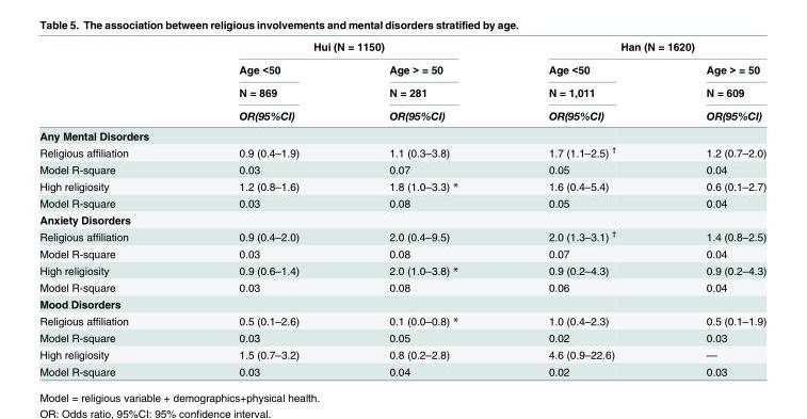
<table><thead><tr><td rowspan="4"></td><td colspan="2">Hui (N = 1150)</td><td colspan="2">Han (N = 1620)</td></tr><tr><td rowspan="3">Age &lt;50 N = 869 OR(95%CI)</td><td rowspan="3">Age &gt; = 50 N = 281 OR(95%CI)</td><td rowspan="3">Age &lt;50 N = 1,011 OR(95%CI)</td><td rowspan="3">Age &gt; = 50 N = 609 OR(95%CI)</td></tr><tr></tr><tr></tr></thead><tbody><tr><td colspan="5">Any Mental Disorders</td></tr><tr><td>Religious affiliation</td><td>0.9 (0.4–1.9)</td><td>1.1 (0.3–3.8)</td><td>1.7 (1.1–2.5) <sup>†</sup></td><td>1.2 (0.7–2.0)</td></tr><tr><td>Model R-square</td><td>0.03</td><td>0.07</td><td>0.05</td><td>0.04</td></tr><tr><td>High religiosity</td><td>1.2 (0.8–1.6)</td><td>1.8 (1.0–3.3) *</td><td>1.6 (0.4–5.4)</td><td>0.6 (0.1–2.7)</td></tr><tr><td>Model R-square</td><td>0.03</td><td>0.08</td><td>0.05</td><td>0.04</td></tr><tr><td colspan="5">Anxiety Disorders</td></tr><tr><td>Religious affiliation</td><td>0.9 (0.4–2.0)</td><td>2.0 (0.4–9.5)</td><td>2.0 (1.3–3.1) <sup>†</sup></td><td>1.4 (0.8–2.5)</td></tr><tr><td>Model R-square</td><td>0.03</td><td>0.08</td><td>0.07</td><td>0.04</td></tr><tr><td>High religiosity</td><td>0.9 (0.6–1.4)</td><td>2.0 (1.0–3.8) *</td><td>0.9 (0.2–4.3)</td><td>0.9 (0.2–4.3)</td></tr><tr><td>Model R-square</td><td>0.03</td><td>0.08</td><td>0.06</td><td>0.04</td></tr><tr><td colspan="5">Mood Disorders</td></tr><tr><td>Religious affiliation</td><td>0.5 (0.1–2.6)</td><td>0.1 (0.0–0.8) *</td><td>1.0 (0.4–2.3)</td><td>0.5 (0.1–1.9)</td></tr><tr><td>Model R-square</td><td>0.03</td><td>0.05</td><td>0.02</td><td>0.03</td></tr><tr><td>High religiosity</td><td>1.5 (0.7–3.2)</td><td>0.8 (0.2–2.8)</td><td>4.6 (0.9–22.6)</td><td>—</td></tr><tr><td>Model R-square</td><td>0.03</td><td>0.04</td><td>0.02</td><td>0.03</td></tr></tbody></table>